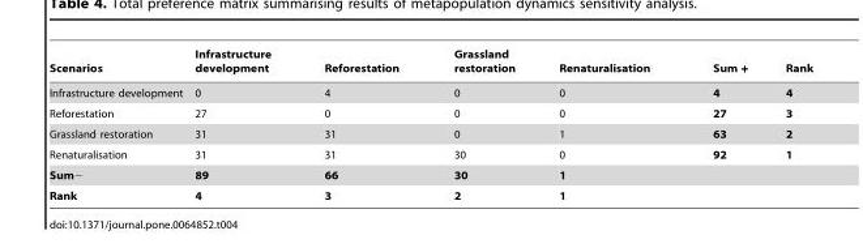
<table><thead><tr><td>Scenarios</td><td>Infrastructure development</td><td>Reforestation</td><td>Grassland restoration</td><td>Renaturalisation</td><td>Sum +</td><td>Rank</td></tr></thead><tbody><tr><td>Infrastructure development</td><td>0</td><td>4</td><td>0</td><td>0</td><td>4</td><td>4</td></tr><tr><td>Reforestation</td><td>27</td><td>0</td><td>0</td><td>0</td><td>27</td><td>3</td></tr><tr><td>Grassland restoration</td><td>31</td><td>31</td><td>0</td><td>1</td><td>63</td><td>2</td></tr><tr><td>Renaturalisation</td><td>31</td><td>31</td><td>30</td><td>0</td><td>92</td><td>1</td></tr><tr><td>Sum−</td><td>89</td><td>66</td><td>30</td><td>1</td><td></td><td></td></tr><tr><td>Rank</td><td>4</td><td>3</td><td>2</td><td>1</td><td></td><td></td></tr></tbody></table>